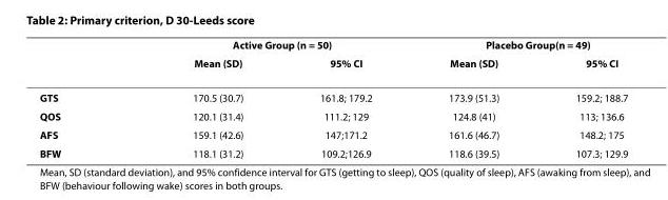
<table><thead><tr><td rowspan="2"></td><td colspan="2">Active Group (n = 50)</td><td colspan="2">Placebo Group(n = 49)</td></tr><tr><td>Mean (SD)</td><td>95% CI</td><td>Mean (SD)</td><td>95% CI</td></tr></thead><tbody><tr><td>GTS</td><td>170.5 (30.7)</td><td>161.8; 179.2</td><td>173.9 (51.3)</td><td>159.2; 188.7</td></tr><tr><td>QOS</td><td>120.1 (31.4)</td><td>111.2; 129</td><td>124.8 (41)</td><td>113; 136.6</td></tr><tr><td>AFS</td><td>159.1 (42.6)</td><td>147;171.2</td><td>161.6 (46.7)</td><td>148.2; 175</td></tr><tr><td>BFW</td><td>118.1 (31.2)</td><td>109.2;126.9</td><td>118.6 (39.5)</td><td>107.3; 129.9</td></tr></tbody></table>